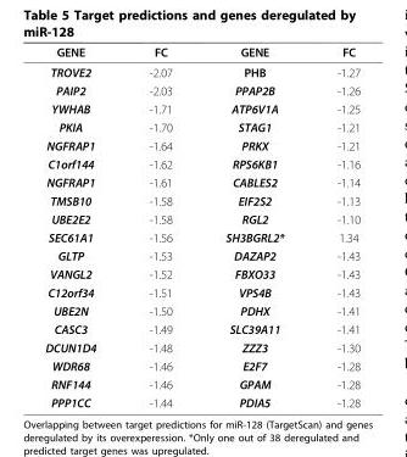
<table><thead><tr><td>GENE</td><td>FC</td><td>GENE</td><td>FC</td></tr></thead><tbody><tr><td>TROVE2</td><td>-2.07</td><td>PHB</td><td>-1.27</td></tr><tr><td>PAIP2</td><td>-2.03</td><td>PPAP2B</td><td>-1.26</td></tr><tr><td>YWHAB</td><td>-1.71</td><td>ATP6V1A</td><td>-1.25</td></tr><tr><td>PKIA</td><td>-1.70</td><td>STAG1</td><td>-1.21</td></tr><tr><td>NGFRAP1</td><td>-1.64</td><td>PRKX</td><td>-1.21</td></tr><tr><td>C1orf144</td><td>-1.62</td><td>RPS6KB1</td><td>-1.16</td></tr><tr><td>NGFRAP1</td><td>-1.61</td><td>CABLES2</td><td>-1.14</td></tr><tr><td>TMSB10</td><td>-1.58</td><td>EIF2S2</td><td>-1.13</td></tr><tr><td>UBE2E2</td><td>-1.58</td><td>RGL2</td><td>-1.10</td></tr><tr><td>SEC61A1</td><td>-1.56</td><td>SH3BGRL2*</td><td>1.34</td></tr><tr><td>GLTP</td><td>-1.53</td><td>DAZAP2</td><td>-1.43</td></tr><tr><td>VANGL2</td><td>-1.52</td><td>FBXO33</td><td>-1.43</td></tr><tr><td>C12orf34</td><td>-1.51</td><td>VPS4B</td><td>-1.43</td></tr><tr><td>UBE2N</td><td>-1.50</td><td>PDHX</td><td>-1.41</td></tr><tr><td>CASC3</td><td>-1.49</td><td>SLC39A11</td><td>-1.41</td></tr><tr><td>DCUN1D4</td><td>-1.48</td><td>ZZZ3</td><td>-1.30</td></tr><tr><td>WDR68</td><td>-1.46</td><td>E2F7</td><td>-1.28</td></tr><tr><td>RNF144</td><td>-1.46</td><td>GPAM</td><td>-1.28</td></tr><tr><td>PPP1CC</td><td>-1.44</td><td>PDIA5</td><td>-1.28</td></tr></tbody></table>